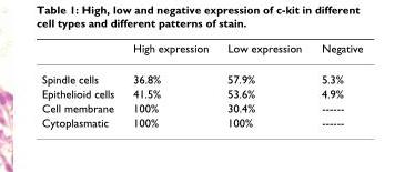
<table><thead><tr><td></td><td>High expression</td><td>Low expression</td><td>Negative</td></tr></thead><tbody><tr><td>Spindle cells</td><td>36.8%</td><td>57.9%</td><td>5.3%</td></tr><tr><td>Epithelioid cells</td><td>41.5%</td><td>53.6%</td><td>4.9%</td></tr><tr><td>Cell membrane</td><td>100%</td><td>30.4%</td><td>------</td></tr><tr><td>Cytoplasmatic</td><td>100%</td><td>100%</td><td>------</td></tr></tbody></table>